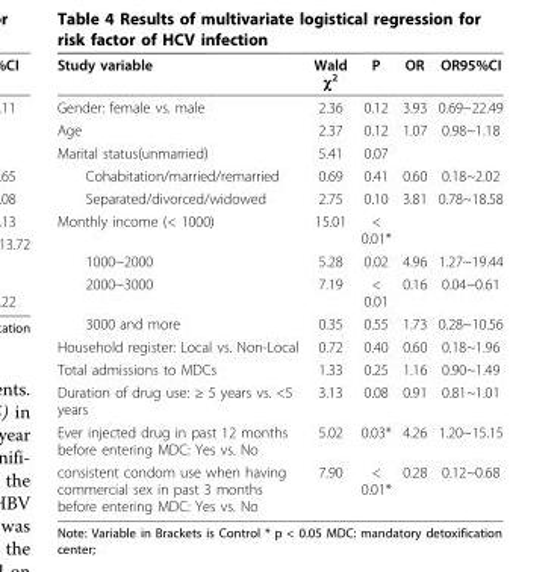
<table><thead><tr><td>Study variable</td><td>Wald χ<sup>2</sup></td><td>P</td><td>OR</td><td>OR95%CI</td></tr></thead><tbody><tr><td>Gender: female vs. male</td><td>2.36</td><td>0.12</td><td>3.93</td><td>0.69~22.49</td></tr><tr><td>Age</td><td>2.37</td><td>0.12</td><td>1.07</td><td>0.98~1.18</td></tr><tr><td>Marital status(unmarried)</td><td>5.41</td><td>0.07</td><td></td><td></td></tr><tr><td>Cohabitation/married/remarried</td><td>0.69</td><td>0.41</td><td>0.60</td><td>0.18~2.02</td></tr><tr><td>Separated/divorced/widowed</td><td>2.75</td><td>0.10</td><td>3.81</td><td>0.78~18.58</td></tr><tr><td>Monthly income (&lt; 1000)</td><td>15.01</td><td>&lt; 0.01*</td><td></td><td></td></tr><tr><td>1000~2000</td><td>5.28</td><td>0.02</td><td>4.96</td><td>1.27~19.44</td></tr><tr><td>2000~3000</td><td>7.19</td><td>&lt; 0.01</td><td>0.16</td><td>0.04~0.61</td></tr><tr><td>3000 and more</td><td>0.35</td><td>0.55</td><td>1.73</td><td>0.28~10.56</td></tr><tr><td>Household register: Local vs. Non-Local</td><td>0.72</td><td>0.40</td><td>0.60</td><td>0.18~1.96</td></tr><tr><td>Total admissions to MDCs</td><td>1.33</td><td>0.25</td><td>1.16</td><td>0.90~1.49</td></tr><tr><td>Duration of drug use: ≥ 5 years vs. &lt;5 years</td><td>3.13</td><td>0.08</td><td>0.91</td><td>0.81~1.01</td></tr><tr><td>Ever injected drug in past 12 months before entering MDC: Yes vs. No</td><td>5.02</td><td>0.03*</td><td>4.26</td><td>1.20~15.15</td></tr><tr><td>consistent condom use when having commercial sex in past 3 months before entering MDC: Yes vs. No</td><td>7.90</td><td>&lt; 0.01*</td><td>0.28</td><td>0.12~0.68</td></tr></tbody></table>